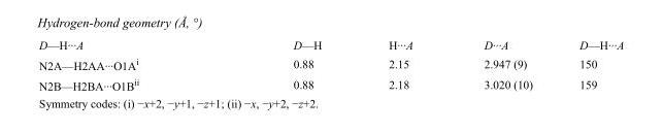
<table><tbody><tr><td>D—H···A</td><td>D—H</td><td>H···A</td><td>D···A</td><td>D—H···A</td></tr><tr><td>N2A—H2AA···O1A<sup>i</sup></td><td>0.88</td><td>2.15</td><td>2.947 (9)</td><td>150</td></tr><tr><td>N2B—H2BA···O1B<sup>ii</sup></td><td>0.88</td><td>2.18</td><td>3.020 (10)</td><td>159</td></tr></tbody></table>